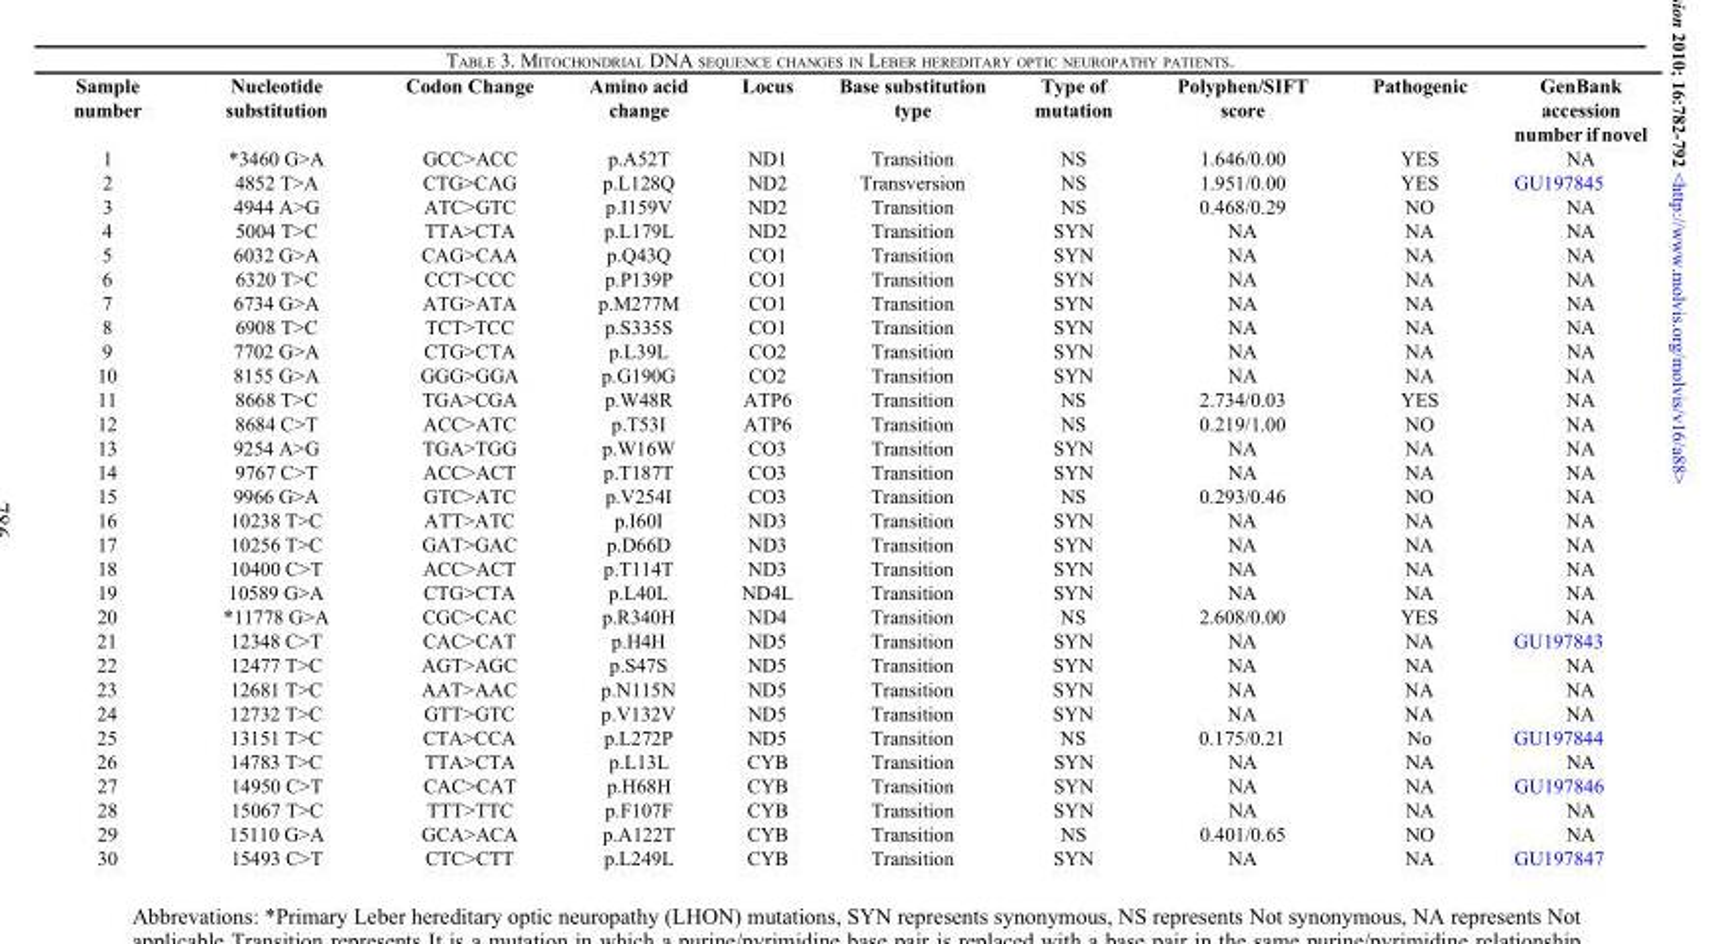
<table><thead><tr><td>Sample number</td><td>Nucleotide substitution</td><td>Codon Change</td><td>Amino acid change</td><td>Locus</td><td>Base substitution type</td><td>Type of mutation</td><td>Polyphen/SIFT score</td><td>Pathogenic</td><td>GenBank accession number if novel</td></tr></thead><tbody><tr><td>1</td><td>*3460 G&gt;A</td><td>GCC&gt;ACC</td><td>p.A52T</td><td>ND1</td><td>Transition</td><td>NS</td><td>1.646/0.00</td><td>YES</td><td>NA</td></tr><tr><td>2</td><td>4852 T&gt;A</td><td>CTG&gt;CAG</td><td>p.L128Q</td><td>ND2</td><td>Transversion</td><td>NS</td><td>1.951/0.00</td><td>YES</td><td>GU197845</td></tr><tr><td>3</td><td>4944 A&gt;G</td><td>ATC&gt;GTC</td><td>p.I159V</td><td>ND2</td><td>Transition</td><td>NS</td><td>0.468/0.29</td><td>NO</td><td>NA</td></tr><tr><td>4</td><td>5004 T&gt;C</td><td>TTA&gt;CTA</td><td>p.L179L</td><td>ND2</td><td>Transition</td><td>SYN</td><td>NA</td><td>NA</td><td>NA</td></tr><tr><td>5</td><td>6032 G&gt;A</td><td>CAG&gt;CAA</td><td>p.Q43Q</td><td>CO1</td><td>Transition</td><td>SYN</td><td>NA</td><td>NA</td><td>NA</td></tr><tr><td>6</td><td>6320 T&gt;C</td><td>CCT&gt;CCC</td><td>p.P139P</td><td>CO1</td><td>Transition</td><td>SYN</td><td>NA</td><td>NA</td><td>NA</td></tr><tr><td>7</td><td>6734 G&gt;A</td><td>ATG&gt;ATA</td><td>p.M277M</td><td>CO1</td><td>Transition</td><td>SYN</td><td>NA</td><td>NA</td><td>NA</td></tr><tr><td>8</td><td>6908 T&gt;C</td><td>TCT&gt;TCC</td><td>p.S335S</td><td>CO1</td><td>Transition</td><td>SYN</td><td>NA</td><td>NA</td><td>NA</td></tr><tr><td>9</td><td>7702 G&gt;A</td><td>CTG&gt;CTA</td><td>p.L39L</td><td>CO2</td><td>Transition</td><td>SYN</td><td>NA</td><td>NA</td><td>NA</td></tr><tr><td>10</td><td>8155 G&gt;A</td><td>GGG&gt;GGA</td><td>p.G190G</td><td>CO2</td><td>Transition</td><td>SYN</td><td>NA</td><td>NA</td><td>NA</td></tr><tr><td>11</td><td>8668 T&gt;C</td><td>TGA&gt;CGA</td><td>p.W48R</td><td>ATP6</td><td>Transition</td><td>NS</td><td>2.734/0.03</td><td>YES</td><td>NA</td></tr><tr><td>12</td><td>8684 C&gt;T</td><td>ACC&gt;ATC</td><td>p.T53I</td><td>ATP6</td><td>Transition</td><td>NS</td><td>0.219/1.00</td><td>NO</td><td>NA</td></tr><tr><td>13</td><td>9254 A&gt;G</td><td>TGA&gt;TGG</td><td>p.W16W</td><td>CO3</td><td>Transition</td><td>SYN</td><td>NA</td><td>NA</td><td>NA</td></tr><tr><td>14</td><td>9767 C&gt;T</td><td>ACC&gt;ACT</td><td>p.T187T</td><td>CO3</td><td>Transition</td><td>SYN</td><td>NA</td><td>NA</td><td>NA</td></tr><tr><td>15</td><td>9966 G&gt;A</td><td>GTC&gt;ATC</td><td>p.V254I</td><td>CO3</td><td>Transition</td><td>NS</td><td>0.293/0.46</td><td>NO</td><td>NA</td></tr><tr><td>16</td><td>10238 T&gt;C</td><td>ATT&gt;ATC</td><td>p.I60I</td><td>ND3</td><td>Transition</td><td>SYN</td><td>NA</td><td>NA</td><td>NA</td></tr><tr><td>17</td><td>10256 T&gt;C</td><td>GAT&gt;GAC</td><td>p.D66D</td><td>ND3</td><td>Transition</td><td>SYN</td><td>NA</td><td>NA</td><td>NA</td></tr><tr><td>18</td><td>10400 C&gt;T</td><td>ACC&gt;ACT</td><td>p.T114T</td><td>ND3</td><td>Transition</td><td>SYN</td><td>NA</td><td>NA</td><td>NA</td></tr><tr><td>19</td><td>10589 G&gt;A</td><td>CTG&gt;CTA</td><td>p.L40L</td><td>ND4L</td><td>Transition</td><td>SYN</td><td>NA</td><td>NA</td><td>NA</td></tr><tr><td>20</td><td>*11778 G&gt;A</td><td>CGC&gt;CAC</td><td>p.R340H</td><td>ND4</td><td>Transition</td><td>NS</td><td>2.608/0.00</td><td>YES</td><td>NA</td></tr><tr><td>21</td><td>12348 C&gt;T</td><td>CAC&gt;CAT</td><td>p.H4H</td><td>ND5</td><td>Transition</td><td>SYN</td><td>NA</td><td>NA</td><td>GU197843</td></tr><tr><td>22</td><td>12477 T&gt;C</td><td>AGT&gt;AGC</td><td>p.S47S</td><td>ND5</td><td>Transition</td><td>SYN</td><td>NA</td><td>NA</td><td>NA</td></tr><tr><td>23</td><td>12681 T&gt;C</td><td>AAT&gt;AAC</td><td>p.N115N</td><td>ND5</td><td>Transition</td><td>SYN</td><td>NA</td><td>NA</td><td>NA</td></tr><tr><td>24</td><td>12732 T&gt;C</td><td>GTT&gt;GTC</td><td>p.V132V</td><td>ND5</td><td>Transition</td><td>SYN</td><td>NA</td><td>NA</td><td>NA</td></tr><tr><td>25</td><td>13151 T&gt;C</td><td>CTA&gt;CCA</td><td>p.L272P</td><td>ND5</td><td>Transition</td><td>NS</td><td>0.175/0.21</td><td>No</td><td>GU197844</td></tr><tr><td>26</td><td>14783 T&gt;C</td><td>TTA&gt;CTA</td><td>p.L13L</td><td>CYB</td><td>Transition</td><td>SYN</td><td>NA</td><td>NA</td><td>NA</td></tr><tr><td>27</td><td>14950 C&gt;T</td><td>CAC&gt;CAT</td><td>p.H68H</td><td>CYB</td><td>Transition</td><td>SYN</td><td>NA</td><td>NA</td><td>GU197846</td></tr><tr><td>28</td><td>15067 T&gt;C</td><td>TTT&gt;TTC</td><td>p.F107F</td><td>CYB</td><td>Transition</td><td>SYN</td><td>NA</td><td>NA</td><td>NA</td></tr><tr><td>29</td><td>15110 G&gt;A</td><td>GCA&gt;ACA</td><td>p.A122T</td><td>CYB</td><td>Transition</td><td>NS</td><td>0.401/0.65</td><td>NO</td><td>NA</td></tr><tr><td>30</td><td>15493 C&gt;T</td><td>CTC&gt;CTT</td><td>p.L249L</td><td>CYB</td><td>Transition</td><td>SYN</td><td>NA</td><td>NA</td><td>GU197847</td></tr></tbody></table>